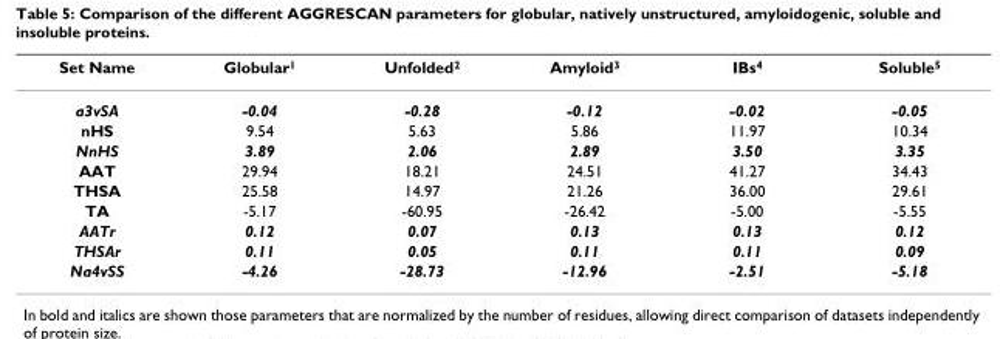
<table><thead><tr><td>Set Name</td><td>Globular<sup>1</sup></td><td>Unfolded<sup>2</sup></td><td>Amyloid<sup>3</sup></td><td>IBs<sup>4</sup></td><td>Soluble<sup>5</sup></td></tr></thead><tbody><tr><td>a3vSA</td><td>-0.04</td><td>-0.28</td><td>-0.12</td><td>-0.02</td><td>-0.05</td></tr><tr><td>nHS</td><td>9.54</td><td>5.63</td><td>5.86</td><td>11.97</td><td>10.34</td></tr><tr><td>NnHS</td><td>3.89</td><td>2.06</td><td>2.89</td><td>3.50</td><td>3.35</td></tr><tr><td>AAT</td><td>29.94</td><td>18.21</td><td>24.51</td><td>41.27</td><td>34.43</td></tr><tr><td>THSA</td><td>25.58</td><td>14.97</td><td>21.26</td><td>36.00</td><td>29.61</td></tr><tr><td>TA</td><td>-5.17</td><td>-60.95</td><td>-26.42</td><td>-5.00</td><td>-5.55</td></tr><tr><td>AATr</td><td>0.12</td><td>0.07</td><td>0.13</td><td>0.13</td><td>0.12</td></tr><tr><td>THSAr</td><td>0.11</td><td>0.05</td><td>0.11</td><td>0.11</td><td>0.09</td></tr><tr><td>Na4vSS</td><td>-4.26</td><td>-28.73</td><td>-12.96</td><td>-2.51</td><td>-5.18</td></tr></tbody></table>